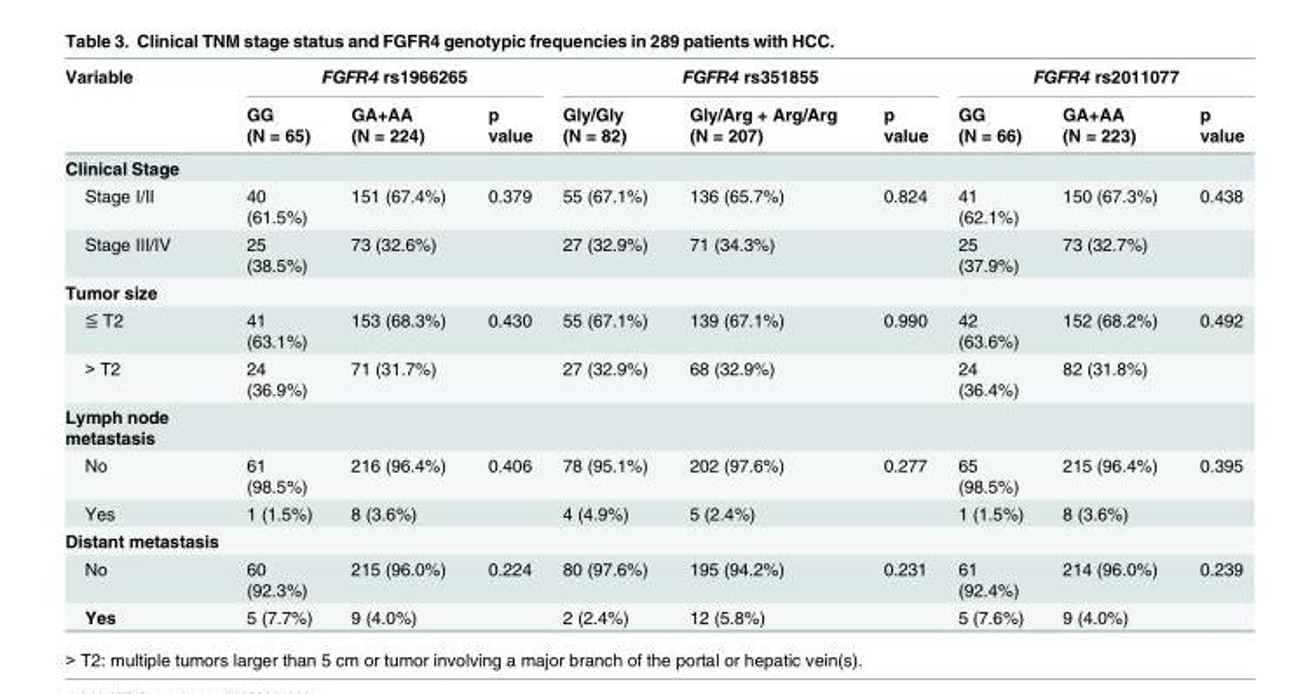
<table><thead><tr><td rowspan="2">Variable</td><td colspan="3">FGFR4 rs1966265</td><td colspan="3">FGFR4 rs351855</td><td colspan="3">FGFR4 rs2011077</td></tr><tr><td>GG (N = 65)</td><td>GA+AA (N = 224)</td><td>p value</td><td>Gly/Gly (N = 82)</td><td>Gly/Arg + Arg/Arg (N = 207)</td><td>p value</td><td>GG (N = 66)</td><td>GA+AA (N = 223)</td><td>p value</td></tr></thead><tbody><tr><td colspan="10">Clinical Stage</td></tr><tr><td>Stage I/II</td><td>40 (61.5%)</td><td>151 (67.4%)</td><td>0.379</td><td>55 (67.1%)</td><td>136 (65.7%)</td><td>0.824</td><td>41 (62.1%)</td><td>150 (67.3%)</td><td>0.438</td></tr><tr><td>Stage III/IV</td><td>25 (38.5%)</td><td>73 (32.6%)</td><td></td><td>27 (32.9%)</td><td>71 (34.3%)</td><td></td><td>25 (37.9%)</td><td>73 (32.7%)</td><td></td></tr><tr><td colspan="10">Tumor size</td></tr><tr><td>≦ T2</td><td>41 (63.1%)</td><td>153 (68.3%)</td><td>0.430</td><td>55 (67.1%)</td><td>139 (67.1%)</td><td>0.990</td><td>42 (63.6%)</td><td>152 (68.2%)</td><td>0.492</td></tr><tr><td>&gt; T2</td><td>24 (36.9%)</td><td>71 (31.7%)</td><td></td><td>27 (32.9%)</td><td>68 (32.9%)</td><td></td><td>24 (36.4%)</td><td>82 (31.8%)</td><td></td></tr><tr><td colspan="10">Lymph node metastasis</td></tr><tr><td>No</td><td>61 (98.5%)</td><td>216 (96.4%)</td><td>0.406</td><td>78 (95.1%)</td><td>202 (97.6%)</td><td>0.277</td><td>65 (98.5%)</td><td>215 (96.4%)</td><td>0.395</td></tr><tr><td>Yes</td><td>1 (1.5%)</td><td>8 (3.6%)</td><td></td><td>4 (4.9%)</td><td>5 (2.4%)</td><td></td><td>1 (1.5%)</td><td>8 (3.6%)</td><td></td></tr><tr><td colspan="10">Distant metastasis</td></tr><tr><td>No</td><td>60 (92.3%)</td><td>215 (96.0%)</td><td>0.224</td><td>80 (97.6%)</td><td>195 (94.2%)</td><td>0.231</td><td>61 (92.4%)</td><td>214 (96.0%)</td><td>0.239</td></tr><tr><td>Yes</td><td>5 (7.7%)</td><td>9 (4.0%)</td><td></td><td>2 (2.4%)</td><td>12 (5.8%)</td><td></td><td>5 (7.6%)</td><td>9 (4.0%)</td><td></td></tr></tbody></table>